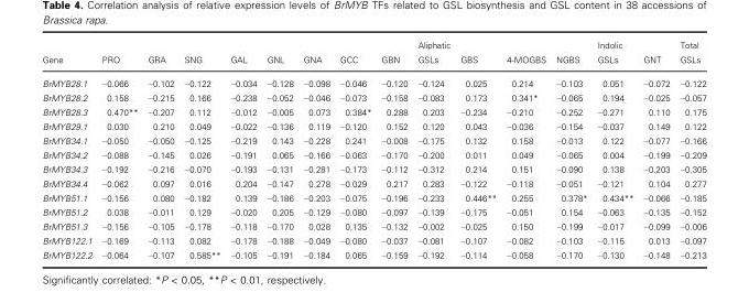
<table><thead><tr><td>Gene</td><td>PRO</td><td>GRA</td><td>SNG</td><td>GAL</td><td>GNL</td><td>GNA</td><td>GCC</td><td>GBN</td><td>Aliphatic GSLs</td><td>GBS</td><td>4-MOGBS</td><td>NGBS</td><td>Indolic GSLs</td><td>GNT</td><td>Total GSLs</td></tr></thead><tbody><tr><td>BrMYB28.1</td><td>−0.066</td><td>−0.102</td><td>−0.122</td><td>−0.034</td><td>−0.128</td><td>−0.098</td><td>−0.046</td><td>−0.120</td><td>−0.124</td><td>0.025</td><td>0.214</td><td>−0.103</td><td>0.051</td><td>−0.072</td><td>−0.122</td></tr><tr><td>BrMYB28.2</td><td>0.158</td><td>−0.215</td><td>0.166</td><td>−0.238</td><td>−0.052</td><td>−0.046</td><td>−0.073</td><td>−0.158</td><td>−0.083</td><td>0.173</td><td>0.341*</td><td>−0.065</td><td>0.194</td><td>−0.025</td><td>−0.057</td></tr><tr><td>BrMYB28.3</td><td>0.470**</td><td>−0.207</td><td>0.112</td><td>−0.012</td><td>−0.005</td><td>0.073</td><td>0.384*</td><td>0.288</td><td>0.203</td><td>−0.234</td><td>−0.210</td><td>−0.252</td><td>−0.271</td><td>0.110</td><td>0.175</td></tr><tr><td>BrMYB29.1</td><td>0.030</td><td>0.210</td><td>0.049</td><td>−0.022</td><td>−0.136</td><td>0.119</td><td>−0.120</td><td>0.152</td><td>0.120</td><td>0.043</td><td>−0.036</td><td>−0.154</td><td>−0.037</td><td>0.149</td><td>0.122</td></tr><tr><td>BrMYB34.1</td><td>−0.050</td><td>−0.050</td><td>−0.125</td><td>−0.219</td><td>0.143</td><td>−0.228</td><td>0.241</td><td>−0.008</td><td>−0.175</td><td>0.132</td><td>0.158</td><td>−0.013</td><td>0.122</td><td>−0.077</td><td>−0.166</td></tr><tr><td>BrMYB34.2</td><td>−0.088</td><td>−0.145</td><td>0.026</td><td>−0.191</td><td>0.065</td><td>−0.166</td><td>−0.063</td><td>−0.170</td><td>−0.200</td><td>0.011</td><td>0.049</td><td>−0.065</td><td>0.004</td><td>−0.199</td><td>−0.209</td></tr><tr><td>BrMYB34.3</td><td>−0.192</td><td>−0.216</td><td>−0.070</td><td>−0.193</td><td>−0.131</td><td>−0.281</td><td>−0.173</td><td>−0.112</td><td>−0.312</td><td>0.214</td><td>0.151</td><td>−0.090</td><td>0.138</td><td>−0.203</td><td>−0.305</td></tr><tr><td>BrMYB34.4</td><td>−0.062</td><td>0.097</td><td>0.016</td><td>0.204</td><td>−0.147</td><td>0.278</td><td>−0.029</td><td>0.217</td><td>0.283</td><td>−0.122</td><td>−0.118</td><td>−0.051</td><td>−0.121</td><td>0.104</td><td>0.277</td></tr><tr><td>BrMYB51.1</td><td>−0.156</td><td>0.080</td><td>−0.182</td><td>0.139</td><td>−0.186</td><td>−0.203</td><td>−0.075</td><td>−0.196</td><td>−0.233</td><td>0.446**</td><td>0.255</td><td>0.378*</td><td>0.434**</td><td>−0.066</td><td>−0.185</td></tr><tr><td>BrMYB51.2</td><td>0.038</td><td>−0.011</td><td>0.129</td><td>−0.020</td><td>0.205</td><td>−0.129</td><td>−0.080</td><td>−0.097</td><td>−0.139</td><td>−0.175</td><td>−0.051</td><td>0.154</td><td>−0.063</td><td>−0.135</td><td>−0.152</td></tr><tr><td>BrMYB51.3</td><td>−0.156</td><td>−0.105</td><td>−0.178</td><td>−0.118</td><td>−0.170</td><td>0.028</td><td>0.135</td><td>−0.132</td><td>−0.002</td><td>−0.025</td><td>0.150</td><td>−0.199</td><td>−0.017</td><td>−0.099</td><td>−0.006</td></tr><tr><td>BrMYB122.1</td><td>−0.169</td><td>−0.113</td><td>0.082</td><td>−0.178</td><td>−0.188</td><td>−0.049</td><td>−0.080</td><td>−0.037</td><td>−0.081</td><td>−0.107</td><td>−0.082</td><td>−0.103</td><td>−0.115</td><td>0.013</td><td>−0.097</td></tr><tr><td>BrMYB122.2</td><td>−0.064</td><td>−0.107</td><td>0.585**</td><td>−0.105</td><td>−0.191</td><td>−0.184</td><td>0.065</td><td>−0.159</td><td>−0.192</td><td>−0.114</td><td>−0.058</td><td>−0.170</td><td>−0.130</td><td>−0.148</td><td>−0.213</td></tr></tbody></table>